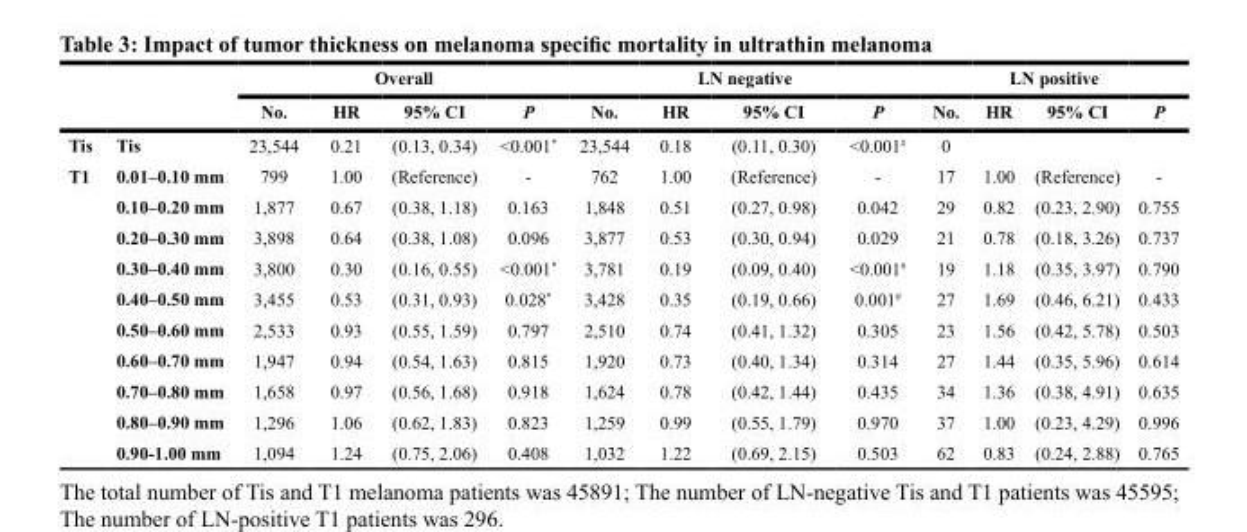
<table><thead><tr><td rowspan="2"></td><td rowspan="2"></td><td colspan="4">Overall</td><td colspan="4">LN negative</td><td colspan="4">LN positive</td></tr><tr><td>No.</td><td>HR</td><td>95% CI</td><td>P</td><td>No.</td><td>HR</td><td>95% CI</td><td>P</td><td>No.</td><td>HR</td><td>95% CI</td><td>P</td></tr></thead><tbody><tr><td>Tis</td><td>Tis</td><td>23,544</td><td>0.21</td><td>(0.13, 0.34)</td><td>&lt;0.001*</td><td>23,544</td><td>0.18</td><td>(0.11, 0.30)</td><td>&lt;0.001<sup>#</sup></td><td>0</td><td></td><td></td><td></td></tr><tr><td rowspan="10">T1</td><td>0.01–0.10 mm</td><td>799</td><td>1.00</td><td>(Reference)</td><td>-</td><td>762</td><td>1.00</td><td>(Reference)</td><td>-</td><td>17</td><td>1.00</td><td>(Reference)</td><td>-</td></tr><tr><td>0.10–0.20 mm</td><td>1,877</td><td>0.67</td><td>(0.38, 1.18)</td><td>0.163</td><td>1,848</td><td>0.51</td><td>(0.27, 0.98)</td><td>0.042</td><td>29</td><td>0.82</td><td>(0.23, 2.90)</td><td>0.755</td></tr><tr><td>0.20–0.30 mm</td><td>3,898</td><td>0.64</td><td>(0.38, 1.08)</td><td>0.096</td><td>3,877</td><td>0.53</td><td>(0.30, 0.94)</td><td>0.029</td><td>21</td><td>0.78</td><td>(0.18, 3.26)</td><td>0.737</td></tr><tr><td>0.30–0.40 mm</td><td>3,800</td><td>0.30</td><td>(0.16, 0.55)</td><td>&lt;0.001*</td><td>3,781</td><td>0.19</td><td>(0.09, 0.40)</td><td>&lt;0.001<sup>#</sup></td><td>19</td><td>1.18</td><td>(0.35, 3.97)</td><td>0.790</td></tr><tr><td>0.40–0.50 mm</td><td>3,455</td><td>0.53</td><td>(0.31, 0.93)</td><td>0.028*</td><td>3,428</td><td>0.35</td><td>(0.19, 0.66)</td><td>0.001<sup>#</sup></td><td>27</td><td>1.69</td><td>(0.46, 6.21)</td><td>0.433</td></tr><tr><td>0.50–0.60 mm</td><td>2,533</td><td>0.93</td><td>(0.55, 1.59)</td><td>0.797</td><td>2,510</td><td>0.74</td><td>(0.41, 1.32)</td><td>0.305</td><td>23</td><td>1.56</td><td>(0.42, 5.78)</td><td>0.503</td></tr><tr><td>0.60–0.70 mm</td><td>1,947</td><td>0.94</td><td>(0.54, 1.63)</td><td>0.815</td><td>1,920</td><td>0.73</td><td>(0.40, 1.34)</td><td>0.314</td><td>27</td><td>1.44</td><td>(0.35, 5.96)</td><td>0.614</td></tr><tr><td>0.70–0.80 mm</td><td>1,658</td><td>0.97</td><td>(0.56, 1.68)</td><td>0.918</td><td>1,624</td><td>0.78</td><td>(0.42, 1.44)</td><td>0.435</td><td>34</td><td>1.36</td><td>(0.38, 4.91)</td><td>0.635</td></tr><tr><td>0.80–0.90 mm</td><td>1,296</td><td>1.06</td><td>(0.62, 1.83)</td><td>0.823</td><td>1,259</td><td>0.99</td><td>(0.55, 1.79)</td><td>0.970</td><td>37</td><td>1.00</td><td>(0.23, 4.29)</td><td>0.996</td></tr><tr><td>0.90-1.00 mm</td><td>1,094</td><td>1.24</td><td>(0.75, 2.06)</td><td>0.408</td><td>1,032</td><td>1.22</td><td>(0.69, 2.15)</td><td>0.503</td><td>62</td><td>0.83</td><td>(0.24, 2.88)</td><td>0.765</td></tr></tbody></table>